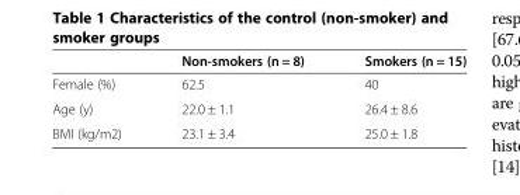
<table><thead><tr><td></td><td>Non-smokers (n = 8)</td><td>Smokers (n = 15)</td></tr></thead><tbody><tr><td>Female (%)</td><td>62.5</td><td>40</td></tr><tr><td>Age (y)</td><td>22.0 ± 1.1</td><td>26.4 ± 8.6</td></tr><tr><td>BMI (kg/m2)</td><td>23.1 ± 3.4</td><td>25.0 ± 1.8</td></tr></tbody></table>